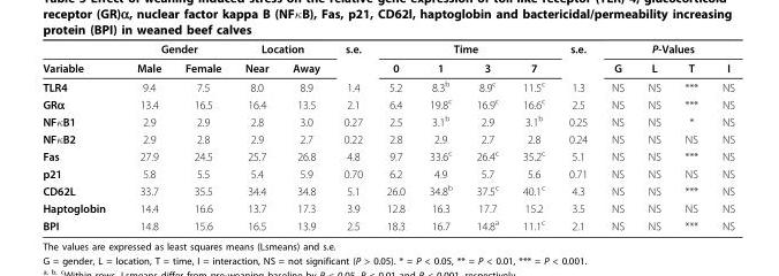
<table><thead><tr><td rowspan="2">Variable</td><td colspan="2">Gender</td><td colspan="2">Location</td><td rowspan="2">s.e.</td><td colspan="4">Time</td><td rowspan="2">s.e.</td><td colspan="4">P-Values</td></tr><tr><td>Male</td><td>Female</td><td>Near</td><td>Away</td><td>0</td><td>1</td><td>3</td><td>7</td><td>G</td><td>L</td><td>T</td><td>I</td></tr></thead><tbody><tr><td>TLR4</td><td>9.4</td><td>7.5</td><td>8.0</td><td>8.9</td><td>1.4</td><td>5.2</td><td>8.3<sup>b</sup></td><td>8.9<sup>c</sup></td><td>11.5<sup>c</sup></td><td>1.3</td><td>NS</td><td>NS</td><td>***</td><td>NS</td></tr><tr><td>GRα</td><td>13.4</td><td>16.5</td><td>16.4</td><td>13.5</td><td>2.1</td><td>6.4</td><td>19.8<sup>c</sup></td><td>16.9<sup>c</sup></td><td>16.6<sup>c</sup></td><td>2.5</td><td>NS</td><td>NS</td><td>***</td><td>NS</td></tr><tr><td>NFκB1</td><td>2.9</td><td>2.9</td><td>2.8</td><td>3.0</td><td>0.27</td><td>2.5</td><td>3.1<sup>b</sup></td><td>2.9</td><td>3.1<sup>b</sup></td><td>0.25</td><td>NS</td><td>NS</td><td>*</td><td>NS</td></tr><tr><td>NFκB2</td><td>2.9</td><td>2.8</td><td>2.9</td><td>2.7</td><td>0.22</td><td>2.8</td><td>2.9</td><td>2.7</td><td>2.8</td><td>0.24</td><td>NS</td><td>NS</td><td>NS</td><td>NS</td></tr><tr><td>Fas</td><td>27.9</td><td>24.5</td><td>25.7</td><td>26.8</td><td>4.8</td><td>9.7</td><td>33.6<sup>c</sup></td><td>26.4<sup>c</sup></td><td>35.2<sup>c</sup></td><td>5.1</td><td>NS</td><td>NS</td><td>***</td><td>NS</td></tr><tr><td>p21</td><td>5.8</td><td>5.5</td><td>5.4</td><td>5.9</td><td>0.70</td><td>6.2</td><td>4.9</td><td>5.7</td><td>5.6</td><td>0.71</td><td>NS</td><td>NS</td><td>NS</td><td>NS</td></tr><tr><td>CD62L</td><td>33.7</td><td>35.5</td><td>34.4</td><td>34.8</td><td>5.1</td><td>26.0</td><td>34.8<sup>b</sup></td><td>37.5<sup>c</sup></td><td>40.1<sup>c</sup></td><td>4.3</td><td>NS</td><td>NS</td><td>***</td><td>NS</td></tr><tr><td>Haptoglobin</td><td>14.4</td><td>16.6</td><td>13.7</td><td>17.3</td><td>3.9</td><td>12.8</td><td>16.3</td><td>17.7</td><td>15.2</td><td>3.5</td><td>NS</td><td>NS</td><td>NS</td><td>NS</td></tr><tr><td>BPI</td><td>14.8</td><td>15.6</td><td>16.5</td><td>13.9</td><td>2.5</td><td>18.3</td><td>16.7</td><td>14.8<sup>a</sup></td><td>11.1<sup>c</sup></td><td>2.1</td><td>NS</td><td>NS</td><td>***</td><td>NS</td></tr></tbody></table>